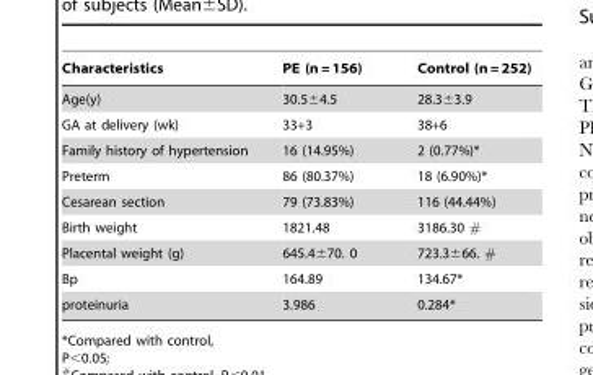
<table><thead><tr><td>Characteristics</td><td>PE (n = 156)</td><td>Control (n = 252)</td></tr></thead><tbody><tr><td>Age(y)</td><td>30.5±4.5</td><td>28.3±3.9</td></tr><tr><td>GA at delivery (wk)</td><td>33+3</td><td>38+6</td></tr><tr><td>Family history of hypertension</td><td>16 (14.95%)</td><td>2 (0.77%)*</td></tr><tr><td>Preterm</td><td>86 (80.37%)</td><td>18 (6.90%)*</td></tr><tr><td>Cesarean section</td><td>79 (73.83%)</td><td>116 (44.44%)</td></tr><tr><td>Birth weight</td><td>1821.48</td><td>3186.30 #</td></tr><tr><td>Placental weight (g)</td><td>645.4±70. 0</td><td>723.3±66. #</td></tr><tr><td>Bp</td><td>164.89</td><td>134.67*</td></tr><tr><td>proteinuria</td><td>3.986</td><td>0.284*</td></tr></tbody></table>